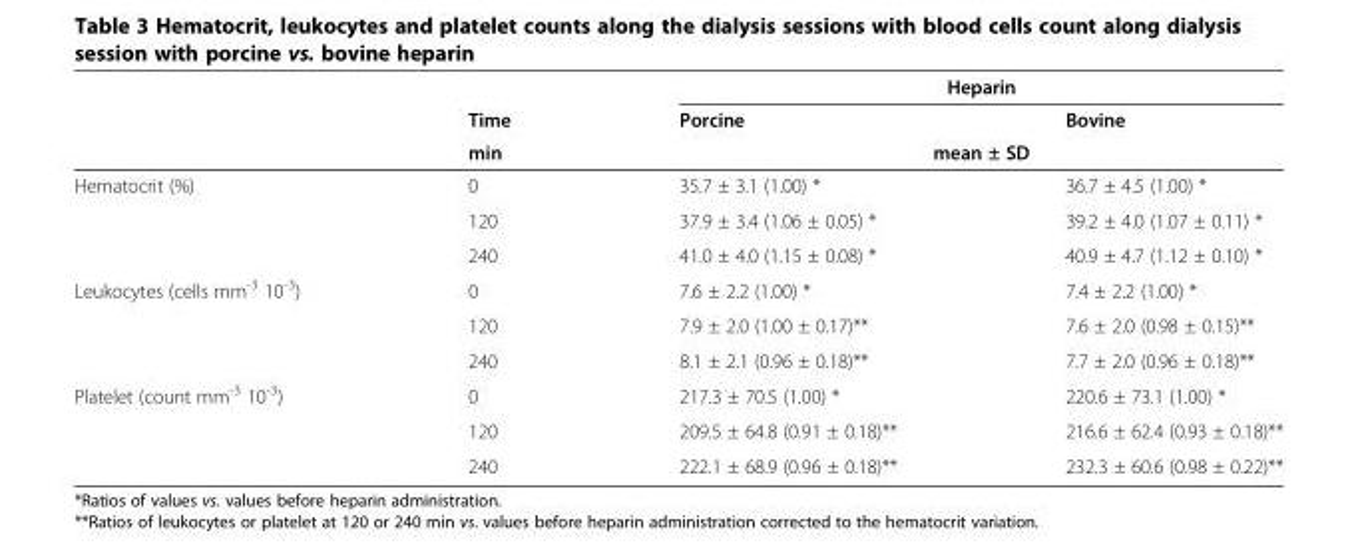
<table><thead><tr><td rowspan="3"></td><td rowspan="3">Time min</td><td rowspan="3">Heparin Porcine mean ± SD</td><td rowspan="3">Bovine</td></tr><tr></tr><tr></tr></thead><tbody><tr><td rowspan="3">Hematocrit (%)</td><td>0</td><td>35.7 ± 3.1 (1.00) *</td><td>36.7 ± 4.5 (1.00) *</td></tr><tr><td>120</td><td>37.9 ± 3.4 (1.06 ± 0.05) *</td><td>39.2 ± 4.0 (1.07 ± 0.11) *</td></tr><tr><td>240</td><td>41.0 ± 4.0 (1.15 ± 0.08) *</td><td>40.9 ± 4.7 (1.12 ± 0.10) *</td></tr><tr><td rowspan="3">Leukocytes (cells mm<sup>-3</sup> 10<sup>-3</sup>)</td><td>0</td><td>7.6 ± 2.2 (1.00) *</td><td>7.4 ± 2.2 (1.00) *</td></tr><tr><td>120</td><td>7.9 ± 2.0 (1.00 ± 0.17)**</td><td>7.6 ± 2.0 (0.98 ± 0.15)**</td></tr><tr><td>240</td><td>8.1 ± 2.1 (0.96 ± 0.18)**</td><td>7.7 ± 2.0 (0.96 ± 0.18)**</td></tr><tr><td rowspan="3">Platelet (count mm<sup>-3</sup> 10<sup>-3</sup>)</td><td>0</td><td>217.3 ± 70.5 (1.00) *</td><td>220.6 ± 73.1 (1.00) *</td></tr><tr><td>120</td><td>209.5 ± 64.8 (0.91 ± 0.18)**</td><td>216.6 ± 62.4 (0.93 ± 0.18)**</td></tr><tr><td>240</td><td>222.1 ± 68.9 (0.96 ± 0.18)**</td><td>232.3 ± 60.6 (0.98 ± 0.22)**</td></tr></tbody></table>